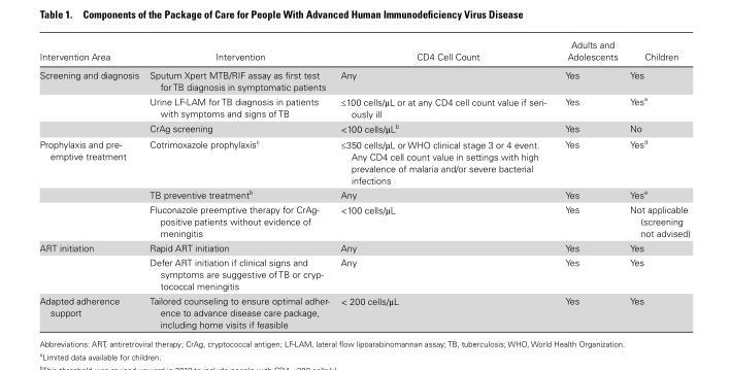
<table><thead><tr><td>Intervention Area</td><td>Intervention</td><td>CD4 Cell Count</td><td>Adults and Adolescents</td><td>Children</td></tr></thead><tbody><tr><td rowspan="3">Screening and diagnosis</td><td>Sputum Xpert MTB/RIF assay as first test for TB diagnosis in symptomatic patients</td><td>Any</td><td>Yes</td><td>Yes</td></tr><tr><td>Urine LF-LAM for TB diagnosis in patients with symptoms and signs of TB</td><td>≤100 cells/µL or at any CD4 cell count value if seri- ously ill</td><td>Yes</td><td>Yes<sup>a</sup></td></tr><tr><td>CrAg screening</td><td>&lt;100 cells/µL<sup>b</sup></td><td>Yes</td><td>No</td></tr><tr><td rowspan="3">Prophylaxis and pre- emptive treatment</td><td>Cotrimoxazole prophylaxis<sup>c</sup></td><td>≤350 cells/µL or WHO clinical stage 3 or 4 event. Any CD4 cell count value in settings with high prevalence of malaria and/or severe bacterial infections</td><td>Yes</td><td>Yes<sup>d</sup></td></tr><tr><td>TB preventive treatment<sup>b</sup></td><td>Any</td><td>Yes</td><td>Yes<sup>e</sup></td></tr><tr><td>Fluconazole preemptive therapy for CrAg- positive patients without evidence of meningitis</td><td>&lt;100 cells/µL</td><td>Yes</td><td>Not applicable (screening not advised)</td></tr><tr><td rowspan="2">ART initiation</td><td>Rapid ART initiation</td><td>Any</td><td>Yes</td><td>Yes</td></tr><tr><td>Defer ART initiation if clinical signs and symptoms are suggestive of TB or cryp- tococcal meningitis</td><td>Any</td><td>Yes</td><td>Yes</td></tr><tr><td>Adapted adherence support</td><td>Tailored counseling to ensure optimal adher- ence to advance disease care package, including home visits if feasible</td><td>&lt; 200 cells/µL</td><td>Yes</td><td>Yes</td></tr></tbody></table>